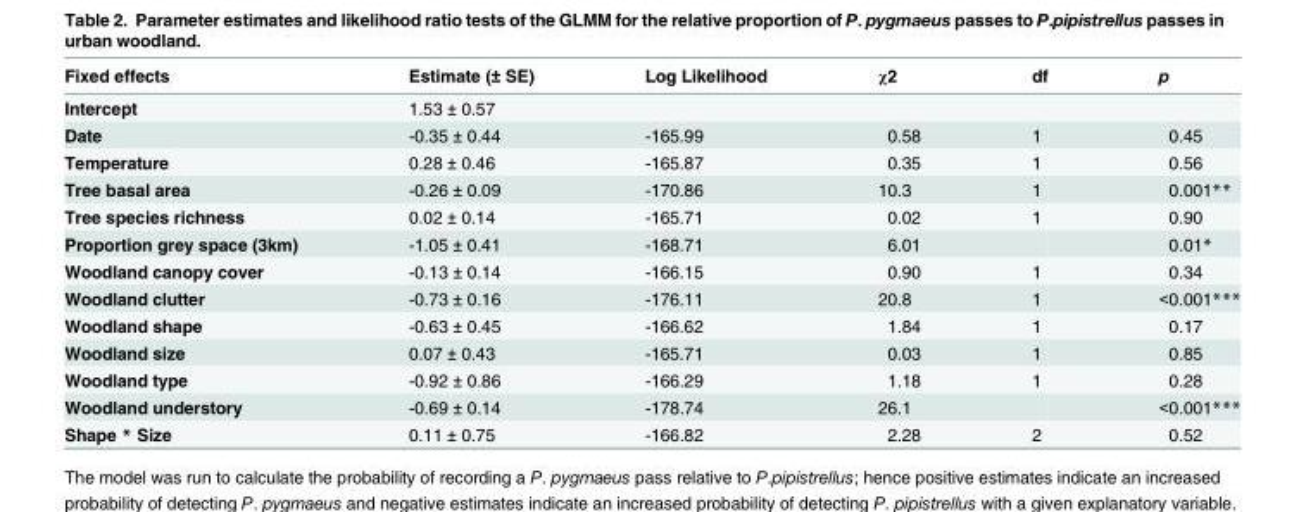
<table><thead><tr><td>Fixed effects</td><td>Estimate (± SE)</td><td>Log Likelihood</td><td>χ2</td><td>df</td><td>p</td></tr></thead><tbody><tr><td>Intercept</td><td>1.53 ± 0.57</td><td></td><td></td><td></td><td></td></tr><tr><td>Date</td><td>-0.35 ± 0.44</td><td>-165.99</td><td>0.58</td><td>1</td><td>0.45</td></tr><tr><td>Temperature</td><td>0.28 ± 0.46</td><td>-165.87</td><td>0.35</td><td>1</td><td>0.56</td></tr><tr><td>Tree basal area</td><td>-0.26 ± 0.09</td><td>-170.86</td><td>10.3</td><td>1</td><td>0.001**</td></tr><tr><td>Tree species richness</td><td>0.02 ± 0.14</td><td>-165.71</td><td>0.02</td><td>1</td><td>0.90</td></tr><tr><td>Proportion grey space (3km)</td><td>-1.05 ± 0.41</td><td>-168.71</td><td>6.01</td><td></td><td>0.01*</td></tr><tr><td>Woodland canopy cover</td><td>-0.13 ± 0.14</td><td>-166.15</td><td>0.90</td><td>1</td><td>0.34</td></tr><tr><td>Woodland clutter</td><td>-0.73 ± 0.16</td><td>-176.11</td><td>20.8</td><td>1</td><td>&lt;0.001***</td></tr><tr><td>Woodland shape</td><td>-0.63 ± 0.45</td><td>-166.62</td><td>1.84</td><td>1</td><td>0.17</td></tr><tr><td>Woodland size</td><td>0.07 ± 0.43</td><td>-165.71</td><td>0.03</td><td>1</td><td>0.85</td></tr><tr><td>Woodland type</td><td>-0.92 ± 0.86</td><td>-166.29</td><td>1.18</td><td>1</td><td>0.28</td></tr><tr><td>Woodland understory</td><td>-0.69 ± 0.14</td><td>-178.74</td><td>26.1</td><td></td><td>&lt;0.001***</td></tr><tr><td>Shape * Size</td><td>0.11 ± 0.75</td><td>-166.82</td><td>2.28</td><td>2</td><td>0.52</td></tr></tbody></table>